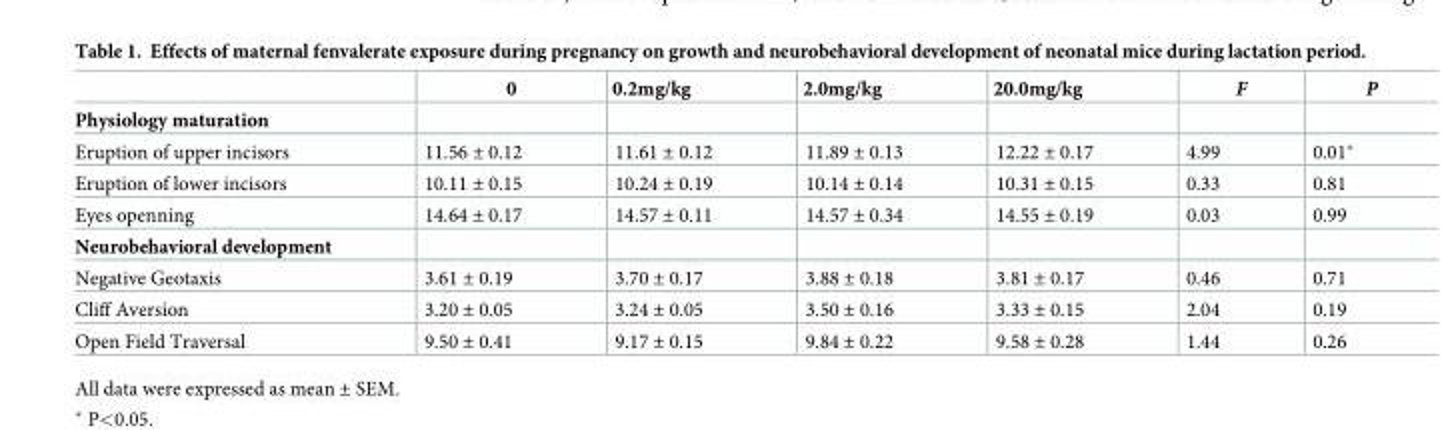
<table><thead><tr><td></td><td>0</td><td>0.2mg/kg</td><td>2.0mg/kg</td><td>20.0mg/kg</td><td>F</td><td>P</td></tr></thead><tbody><tr><td colspan="7">Physiology maturation</td></tr><tr><td>Eruption of upper incisors</td><td>11.56 ± 0.12</td><td>11.61 ± 0.12</td><td>11.89 ± 0.13</td><td>12.22 ± 0.17</td><td>4.99</td><td>0.01*</td></tr><tr><td>Eruption of lower incisors</td><td>10.11 ± 0.15</td><td>10.24 ± 0.19</td><td>10.14 ± 0.14</td><td>10.31 ± 0.15</td><td>0.33</td><td>0.81</td></tr><tr><td>Eyes openning</td><td>14.64 ± 0.17</td><td>14.57 ± 0.11</td><td>14.57 ± 0.34</td><td>14.55 ± 0.19</td><td>0.03</td><td>0.99</td></tr><tr><td colspan="7">Neurobehavioral development</td></tr><tr><td>Negative Geotaxis</td><td>3.61 ± 0.19</td><td>3.70 ± 0.17</td><td>3.88 ± 0.18</td><td>3.81 ± 0.17</td><td>0.46</td><td>0.71</td></tr><tr><td>Cliff Aversion</td><td>3.20 ± 0.05</td><td>3.24 ± 0.05</td><td>3.50 ± 0.16</td><td>3.33 ± 0.15</td><td>2.04</td><td>0.19</td></tr><tr><td>Open Field Traversal</td><td>9.50 ± 0.41</td><td>9.17 ± 0.15</td><td>9.84 ± 0.22</td><td>9.58 ± 0.28</td><td>1.44</td><td>0.26</td></tr></tbody></table>